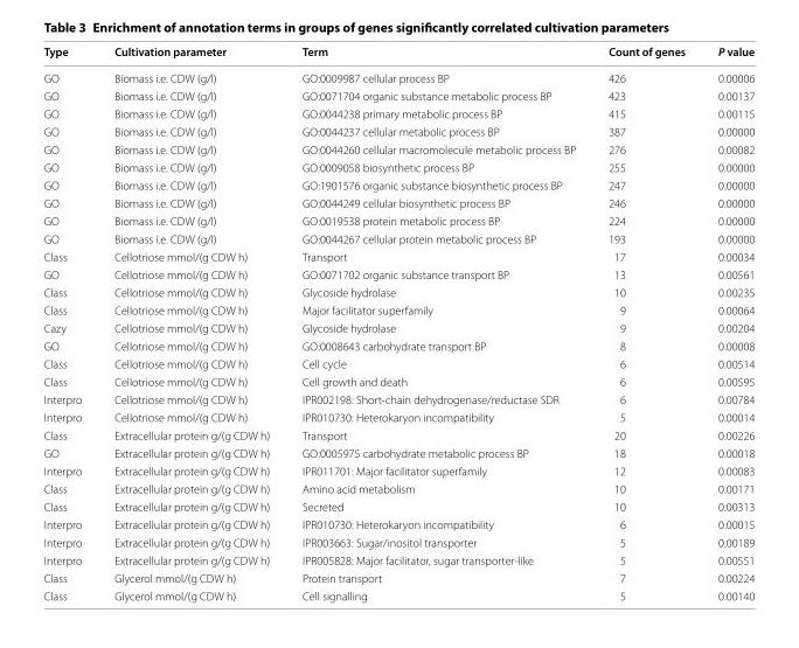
<table><thead><tr><td>Type</td><td>Cultivation parameter</td><td>Term</td><td>Count of genes</td><td>P value</td></tr></thead><tbody><tr><td>GO</td><td>Biomass i.e. CDW (g/l)</td><td>GO:0009987 cellular process BP</td><td>426</td><td>0.00006</td></tr><tr><td>GO</td><td>Biomass i.e. CDW (g/l)</td><td>GO:0071704 organic substance metabolic process BP</td><td>423</td><td>0.00137</td></tr><tr><td>GO</td><td>Biomass i.e. CDW (g/l)</td><td>GO:0044238 primary metabolic process BP</td><td>415</td><td>0.00115</td></tr><tr><td>GO</td><td>Biomass i.e. CDW (g/l)</td><td>GO:0044237 cellular metabolic process BP</td><td>387</td><td>0.00000</td></tr><tr><td>GO</td><td>Biomass i.e. CDW (g/l)</td><td>GO:0044260 cellular macromolecule metabolic process BP</td><td>276</td><td>0.00082</td></tr><tr><td>GO</td><td>Biomass i.e. CDW (g/l)</td><td>GO:0009058 biosynthetic process BP</td><td>255</td><td>0.00000</td></tr><tr><td>GO</td><td>Biomass i.e. CDW (g/l)</td><td>GO:1901576 organic substance biosynthetic process BP</td><td>247</td><td>0.00000</td></tr><tr><td>GO</td><td>Biomass i.e. CDW (g/l)</td><td>GO:0044249 cellular biosynthetic process BP</td><td>246</td><td>0.00000</td></tr><tr><td>GO</td><td>Biomass i.e. CDW (g/l)</td><td>GO:0019538 protein metabolic process BP</td><td>224</td><td>0.00000</td></tr><tr><td>GO</td><td>Biomass i.e. CDW (g/l)</td><td>GO:0044267 cellular protein metabolic process BP</td><td>193</td><td>0.00000</td></tr><tr><td>Class</td><td>Cellotriose mmol/(g CDW h)</td><td>Transport</td><td>17</td><td>0.00034</td></tr><tr><td>GO</td><td>Cellotriose mmol/(g CDW h)</td><td>GO:0071702 organic substance transport BP</td><td>13</td><td>0.00561</td></tr><tr><td>Class</td><td>Cellotriose mmol/(g CDW h)</td><td>Glycoside hydrolase</td><td>10</td><td>0.00235</td></tr><tr><td>Class</td><td>Cellotriose mmol/(g CDW h)</td><td>Major facilitator superfamily</td><td>9</td><td>0.00064</td></tr><tr><td>Cazy</td><td>Cellotriose mmol/(g CDW h)</td><td>Glycoside hydrolase</td><td>9</td><td>0.00204</td></tr><tr><td>GO</td><td>Cellotriose mmol/(g CDW h)</td><td>GO:0008643 carbohydrate transport BP</td><td>8</td><td>0.00008</td></tr><tr><td>Class</td><td>Cellotriose mmol/(g CDW h)</td><td>Cell cycle</td><td>6</td><td>0.00514</td></tr><tr><td>Class</td><td>Cellotriose mmol/(g CDW h)</td><td>Cell growth and death</td><td>6</td><td>0.00595</td></tr><tr><td>Interpro</td><td>Cellotriose mmol/(g CDW h)</td><td>IPR002198: Short-chain dehydrogenase/reductase SDR</td><td>6</td><td>0.00784</td></tr><tr><td>Interpro</td><td>Cellotriose mmol/(g CDW h)</td><td>IPR010730: Heterokaryon incompatibility</td><td>5</td><td>0.00014</td></tr><tr><td>Class</td><td>Extracellular protein g/(g CDW h)</td><td>Transport</td><td>20</td><td>0.00226</td></tr><tr><td>GO</td><td>Extracellular protein g/(g CDW h)</td><td>GO:0005975 carbohydrate metabolic process BP</td><td>18</td><td>0.00018</td></tr><tr><td>Interpro</td><td>Extracellular protein g/(g CDW h)</td><td>IPR011701: Major facilitator superfamily</td><td>12</td><td>0.00083</td></tr><tr><td>Class</td><td>Extracellular protein g/(g CDW h)</td><td>Amino acid metabolism</td><td>10</td><td>0.00171</td></tr><tr><td>Class</td><td>Extracellular protein g/(g CDW h)</td><td>Secreted</td><td>10</td><td>0.00313</td></tr><tr><td>Interpro</td><td>Extracellular protein g/(g CDW h)</td><td>IPR010730: Heterokaryon incompatibility</td><td>6</td><td>0.00015</td></tr><tr><td>Interpro</td><td>Extracellular protein g/(g CDW h)</td><td>IPR003663: Sugar/inositol transporter</td><td>5</td><td>0.00189</td></tr><tr><td>Interpro</td><td>Extracellular protein g/(g CDW h)</td><td>IPR005828: Major facilitator, sugar transporter-like</td><td>5</td><td>0.00551</td></tr><tr><td>Class</td><td>Glycerol mmol/(g CDW h)</td><td>Protein transport</td><td>7</td><td>0.00224</td></tr><tr><td>Class</td><td>Glycerol mmol/(g CDW h)</td><td>Cell signalling</td><td>5</td><td>0.00140</td></tr></tbody></table>